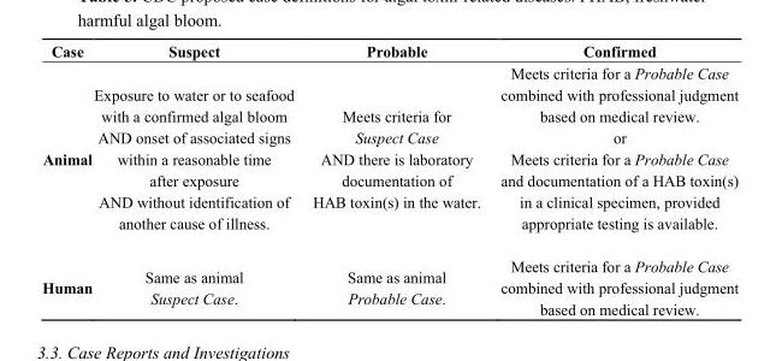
<table><thead><tr><td>Case</td><td>Suspect</td><td>Probable</td><td>Confirmed</td></tr></thead><tbody><tr><td>Animal</td><td>Exposure to water or to seafood with a confirmed algal bloom AND onset of associated signs within a reasonable time after exposure AND without identification of another cause of illness.</td><td>Meets criteria for Suspect Case AND there is laboratory documentation of HAB toxin(s) in the water.</td><td>Meets criteria for a Probable Case combined with professional judgment based on medical review. or Meets criteria for a Probable Case and documentation of a HAB toxin(s) in a clinical specimen, provided appropriate testing is available.</td></tr><tr><td>Human</td><td>Same as animal Suspect Case.</td><td>Same as animal Probable Case.</td><td>Meets criteria for a Probable Case combined with professional judgment based on medical review.</td></tr></tbody></table>